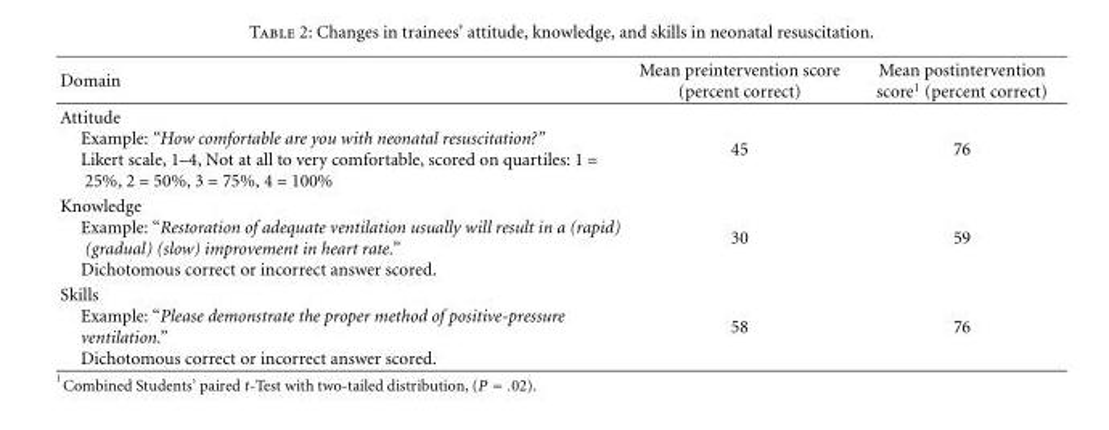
<table><thead><tr><td>Domain</td><td>Mean preintervention score (percent correct)</td><td>Mean postintervention score<sup>1</sup> (percent correct)</td></tr></thead><tbody><tr><td>Attitude Example: “How comfortable are you with neonatal resuscitation?” Likert scale, 1–4, Not at all to very comfortable, scored on quartiles: 1 = 25%, 2 = 50%, 3 = 75%, 4 = 100%</td><td>45</td><td>76</td></tr><tr><td>Knowledge Example: “Restoration of adequate ventilation usually will result in a (rapid) (gradual) (slow) improvement in heart rate.” Dichotomous correct or incorrect answer scored.</td><td>30</td><td>59</td></tr><tr><td>Skills Example: “Please demonstrate the proper method of positive-pressure ventilation.” Dichotomous correct or incorrect answer scored.</td><td>58</td><td>76</td></tr></tbody></table>